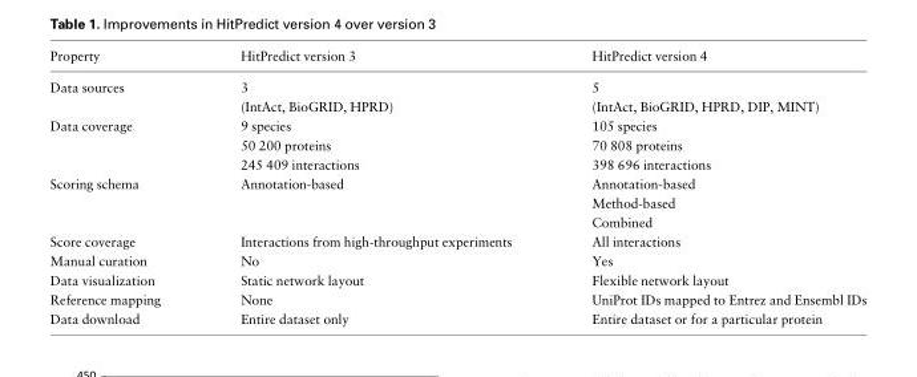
<table><thead><tr><td>Property</td><td>HitPredict version 3</td><td>HitPredict version 4</td></tr></thead><tbody><tr><td rowspan="2">Data sources</td><td>3</td><td>5</td></tr><tr><td>(IntAct, BioGRID, HPRD)</td><td>(IntAct, BioGRID, HPRD, DIP, MINT)</td></tr><tr><td rowspan="3">Data coverage</td><td>9 species</td><td>105 species</td></tr><tr><td>50 200 proteins</td><td>70 808 proteins</td></tr><tr><td>245 409 interactions</td><td>398 696 interactions</td></tr><tr><td rowspan="3">Scoring schema</td><td rowspan="3">Annotation-based</td><td>Annotation-based</td></tr><tr><td>Method-based</td></tr><tr><td>Combined</td></tr><tr><td>Score coverage</td><td>Interactions from high-throughput experiments</td><td>All interactions</td></tr><tr><td>Manual curation</td><td>No</td><td>Yes</td></tr><tr><td>Data visualization</td><td>Static network layout</td><td>Flexible network layout</td></tr><tr><td>Reference mapping</td><td>None</td><td>UniProt IDs mapped to Entrez and Ensembl IDs</td></tr><tr><td>Data download</td><td>Entire dataset only</td><td>Entire dataset or for a particular protein</td></tr></tbody></table>